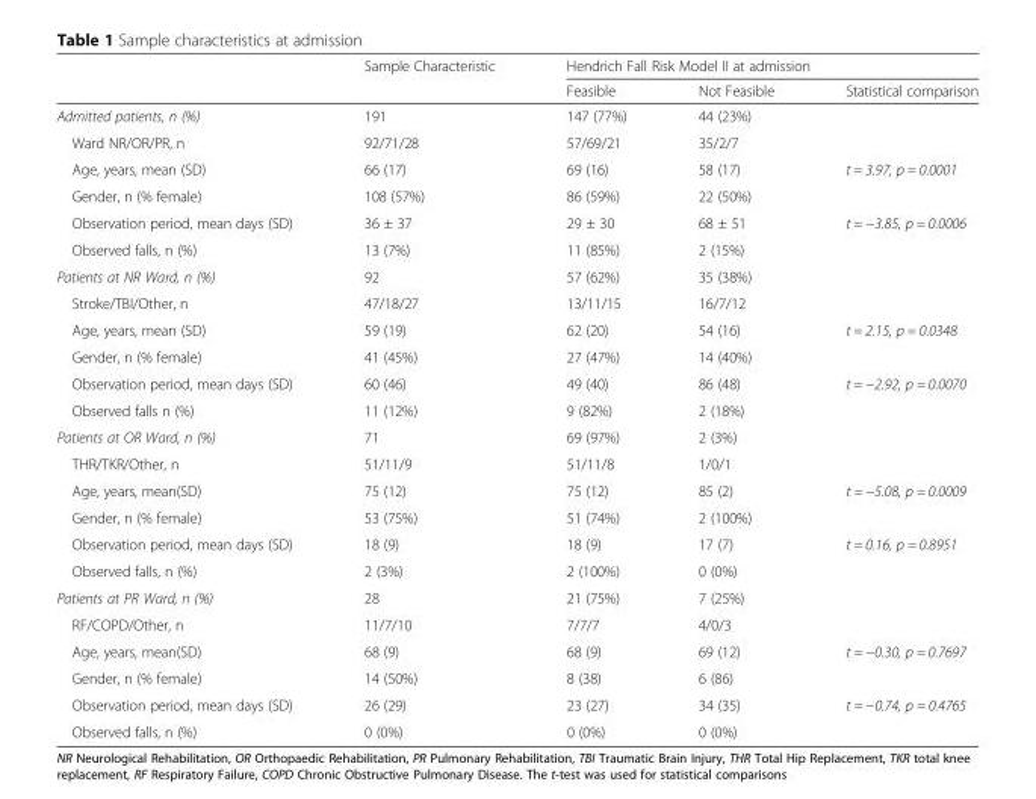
<table><thead><tr><td rowspan="2"></td><td rowspan="2">Sample Characteristic</td><td colspan="3">Hendrich Fall Risk Model II at admission</td></tr><tr><td>Feasible</td><td>Not Feasible</td><td>Statistical comparison</td></tr></thead><tbody><tr><td>Admitted patients, n (%)</td><td>191</td><td>147 (77%)</td><td>44 (23%)</td><td></td></tr><tr><td>Ward NR/OR/PR, n</td><td>92/71/28</td><td>57/69/21</td><td>35/2/7</td><td></td></tr><tr><td>Age, years, mean (SD)</td><td>66 (17)</td><td>69 (16)</td><td>58 (17)</td><td>t = 3.97, p = 0.0001</td></tr><tr><td>Gender, n (% female)</td><td>108 (57%)</td><td>86 (59%)</td><td>22 (50%)</td><td></td></tr><tr><td>Observation period, mean days (SD)</td><td>36 ± 37</td><td>29 ± 30</td><td>68 ± 51</td><td>t = −3.85, p = 0.0006</td></tr><tr><td>Observed falls, n (%)</td><td>13 (7%)</td><td>11 (85%)</td><td>2 (15%)</td><td></td></tr><tr><td>Patients at NR Ward, n (%)</td><td>92</td><td>57 (62%)</td><td>35 (38%)</td><td></td></tr><tr><td>Stroke/TBI/Other, n</td><td>47/18/27</td><td>13/11/15</td><td>16/7/12</td><td></td></tr><tr><td>Age, years, mean (SD)</td><td>59 (19)</td><td>62 (20)</td><td>54 (16)</td><td>t = 2.15, p = 0.0348</td></tr><tr><td>Gender, n (% female)</td><td>41 (45%)</td><td>27 (47%)</td><td>14 (40%)</td><td></td></tr><tr><td>Observation period, mean days (SD)</td><td>60 (46)</td><td>49 (40)</td><td>86 (48)</td><td>t = −2.92, p = 0.0070</td></tr><tr><td>Observed falls n (%)</td><td>11 (12%)</td><td>9 (82%)</td><td>2 (18%)</td><td></td></tr><tr><td>Patients at OR Ward, n (%)</td><td>71</td><td>69 (97%)</td><td>2 (3%)</td><td></td></tr><tr><td>THR/TKR/Other, n</td><td>51/11/9</td><td>51/11/8</td><td>1/0/1</td><td></td></tr><tr><td>Age, years, mean(SD)</td><td>75 (12)</td><td>75 (12)</td><td>85 (2)</td><td>t = −5.08, p = 0.0009</td></tr><tr><td>Gender, n (% female)</td><td>53 (75%)</td><td>51 (74%)</td><td>2 (100%)</td><td></td></tr><tr><td>Observation period, mean days (SD)</td><td>18 (9)</td><td>18 (9)</td><td>17 (7)</td><td>t = 0.16, p = 0.8951</td></tr><tr><td>Observed falls, n (%)</td><td>2 (3%)</td><td>2 (100%)</td><td>0 (0%)</td><td></td></tr><tr><td>Patients at PR Ward, n (%)</td><td>28</td><td>21 (75%)</td><td>7 (25%)</td><td></td></tr><tr><td>RF/COPD/Other, n</td><td>11/7/10</td><td>7/7/7</td><td>4/0/3</td><td></td></tr><tr><td>Age, years, mean(SD)</td><td>68 (9)</td><td>68 (9)</td><td>69 (12)</td><td>t = −0.30, p = 0.7697</td></tr><tr><td>Gender, n (% female)</td><td>14 (50%)</td><td>8 (38)</td><td>6 (86)</td><td></td></tr><tr><td>Observation period, mean days (SD)</td><td>26 (29)</td><td>23 (27)</td><td>34 (35)</td><td>t = −0.74, p = 0.4765</td></tr><tr><td>Observed falls, n (%)</td><td>0 (0%)</td><td>0 (0%)</td><td>0 (0%)</td><td></td></tr></tbody></table>